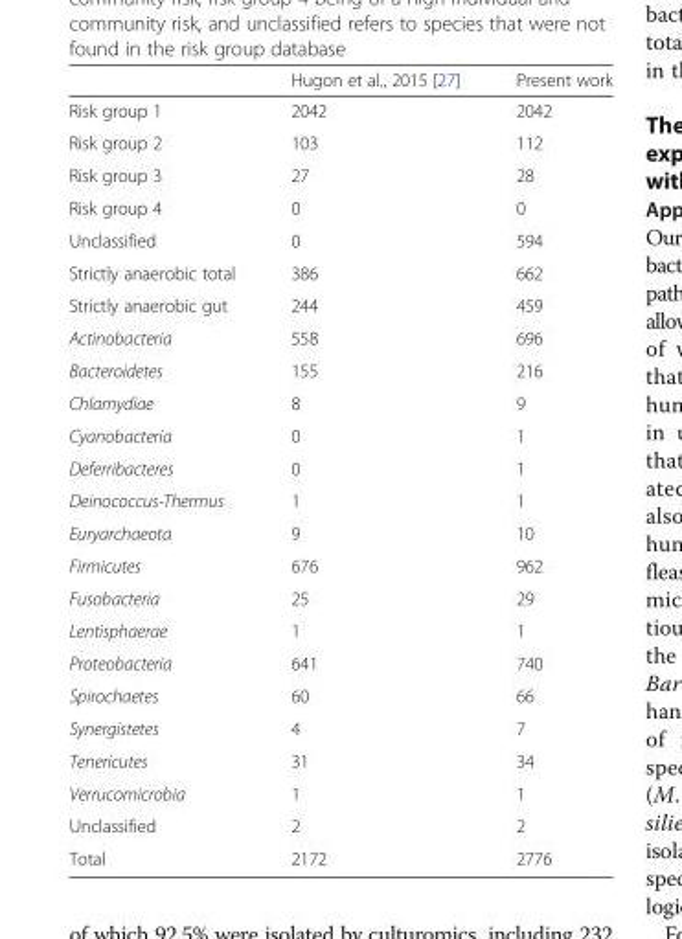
<table><thead><tr><td></td><td>Hugon et al., 2015 [27]</td><td>Present work</td></tr></thead><tbody><tr><td>Risk group 1</td><td>2042</td><td>2042</td></tr><tr><td>Risk group 2</td><td>103</td><td>112</td></tr><tr><td>Risk group 3</td><td>27</td><td>28</td></tr><tr><td>Risk group 4</td><td>0</td><td>0</td></tr><tr><td>Unclassified</td><td>0</td><td>594</td></tr><tr><td>Strictly anaerobic total</td><td>386</td><td>662</td></tr><tr><td>Strictly anaerobic gut</td><td>244</td><td>459</td></tr><tr><td>Actinobacteria</td><td>558</td><td>696</td></tr><tr><td>Bacteroidetes</td><td>155</td><td>216</td></tr><tr><td>Chlamydiae</td><td>8</td><td>9</td></tr><tr><td>Cyanobacteria</td><td>0</td><td>1</td></tr><tr><td>Deferribacteres</td><td>0</td><td>1</td></tr><tr><td>Deinococcus-Thermus</td><td>1</td><td>1</td></tr><tr><td>Euryarchaeota</td><td>9</td><td>10</td></tr><tr><td>Firmicutes</td><td>676</td><td>962</td></tr><tr><td>Fusobacteria</td><td>25</td><td>29</td></tr><tr><td>Lentisphaerae</td><td>1</td><td>1</td></tr><tr><td>Proteobacteria</td><td>641</td><td>740</td></tr><tr><td>Spirochaetes</td><td>60</td><td>66</td></tr><tr><td>Synergistetes</td><td>4</td><td>7</td></tr><tr><td>Tenericutes</td><td>31</td><td>34</td></tr><tr><td>Verrucomicrobia</td><td>1</td><td>1</td></tr><tr><td>Unclassified</td><td>2</td><td>2</td></tr><tr><td>Total</td><td>2172</td><td>2776</td></tr></tbody></table>